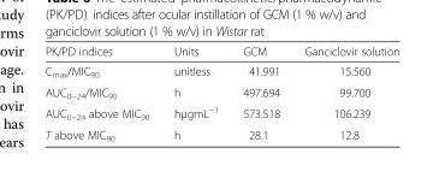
<table><thead><tr><td>PK/PD indices</td><td>Units</td><td>GCM</td><td>Ganciclovir solution</td></tr></thead><tbody><tr><td>C<sub>max</sub>/MIC<sub>90</sub></td><td>unitless</td><td>41.991</td><td>15.560</td></tr><tr><td>AUC<sub>0−24</sub>/MIC<sub>90</sub></td><td>h</td><td>497.694</td><td>99.700</td></tr><tr><td>AUC<sub>0−24</sub> above MIC<sub>90</sub></td><td>hμgmL<sup>−1</sup></td><td>573.518</td><td>106.239</td></tr><tr><td>T above MIC<sub>90</sub></td><td>h</td><td>28.1</td><td>12.8</td></tr></tbody></table>